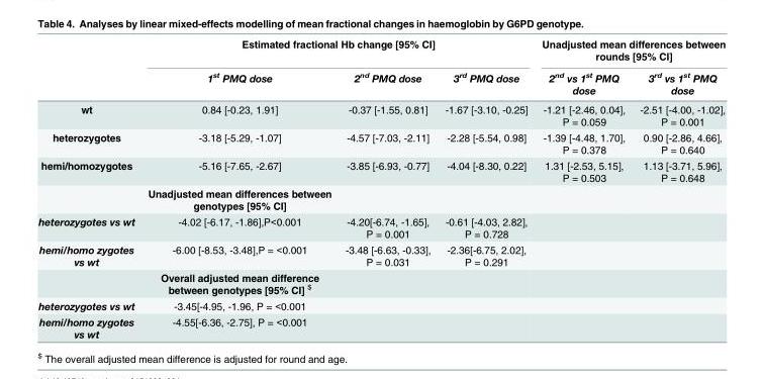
<table><thead><tr><td rowspan="2"></td><td colspan="3">Estimated fractional Hb change [95% CI]</td><td colspan="2">Unadjusted mean differences between rounds [95% CI]</td></tr><tr><td>1<sup>st</sup> PMQ dose</td><td>2<sup>nd</sup> PMQ dose</td><td>3<sup>rd</sup> PMQ dose</td><td>2<sup>nd</sup> vs 1<sup>st</sup> PMQ dose</td><td>3<sup>rd</sup> vs 1<sup>st</sup> PMQ dose</td></tr></thead><tbody><tr><td>wt</td><td>0.84 [-0.23, 1.91]</td><td>-0.37 [-1.55, 0.81]</td><td>-1.67 [-3.10, -0.25]</td><td>-1.21 [-2.46, 0.04], P = 0.059</td><td>-2.51 [-4.00, -1.02], P = 0.001</td></tr><tr><td>heterozygotes</td><td>-3.18 [-5.29, -1.07]</td><td>-4.57 [-7.03, -2.11]</td><td>-2.28 [-5.54, 0.98]</td><td>-1.39 [-4.48, 1.70], P = 0.378</td><td>0.90 [-2.86, 4.66], P = 0.640</td></tr><tr><td rowspan="2">hemi/homozygotes</td><td>-5.16 [-7.65, -2.67]</td><td>-3.85 [-6.93, -0.77]</td><td>-4.04 [-8.30, 0.22]</td><td>1.31 [-2.53, 5.15], P = 0.503</td><td>1.13 [-3.71, 5.96], P = 0.648</td></tr><tr><td>Unadjusted mean differences between genotypes [95% CI]</td><td></td><td></td><td></td><td></td></tr><tr><td>heterozygotes vs wt</td><td>-4.02 [-6.17, -1.86],P&lt;0.001</td><td>-4.20[-6.74, -1.65], P = 0.001</td><td>-0.61 [-4.03, 2.82], P = 0.728</td><td></td><td></td></tr><tr><td rowspan="2">hemi/homo zygotes vs wt</td><td>-6.00 [-8.53, -3.48],P = &lt;0.001</td><td>-3.48 [-6.63, -0.33], P = 0.031</td><td>-2.36[-6.75, 2.02], P = 0.291</td><td></td><td></td></tr><tr><td>Overall adjusted mean difference between genotypes [95% CI] <sup>$</sup></td><td></td><td></td><td></td><td></td></tr><tr><td>heterozygotes vs wt</td><td>-3.45[-4.95, -1.96, P = &lt;0.001</td><td></td><td></td><td></td><td></td></tr><tr><td>hemi/homo zygotes vs wt</td><td>-4.55[-6.36, -2.75], P = &lt;0.001</td><td></td><td></td><td></td><td></td></tr></tbody></table>